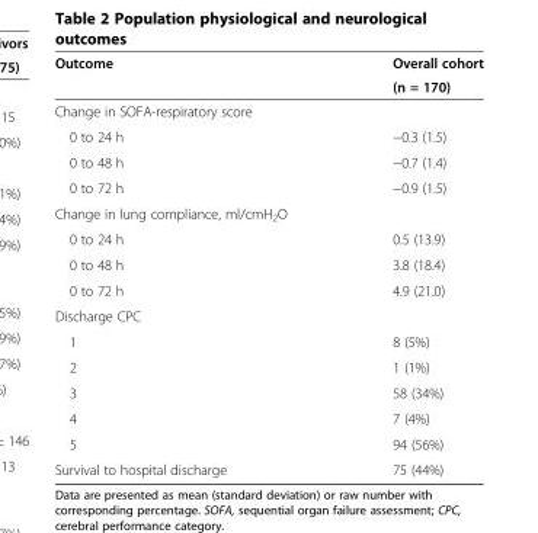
<table><thead><tr><td rowspan="2">Outcome</td><td rowspan="2">Overall cohort (n = 170)</td></tr><tr></tr></thead><tbody><tr><td colspan="2">Change in SOFA-respiratory score</td></tr><tr><td>0 to 24 h</td><td>−0.3 (1.5)</td></tr><tr><td>0 to 48 h</td><td>−0.7 (1.4)</td></tr><tr><td>0 to 72 h</td><td>−0.9 (1.5)</td></tr><tr><td colspan="2">Change in lung compliance, ml/cmH<sub>2</sub>O</td></tr><tr><td>0 to 24 h</td><td>0.5 (13.9)</td></tr><tr><td>0 to 48 h</td><td>3.8 (18.4)</td></tr><tr><td>0 to 72 h</td><td>4.9 (21.0)</td></tr><tr><td colspan="2">Discharge CPC</td></tr><tr><td>1</td><td>8 (5%)</td></tr><tr><td>2</td><td>1 (1%)</td></tr><tr><td>3</td><td>58 (34%)</td></tr><tr><td>4</td><td>7 (4%)</td></tr><tr><td>5</td><td>94 (56%)</td></tr><tr><td>Survival to hospital discharge</td><td>75 (44%)</td></tr></tbody></table>